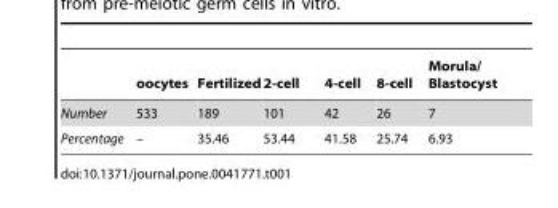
<table><thead><tr><td></td><td>oocytes</td><td>Fertilized</td><td>2-cell</td><td>4-cell</td><td>8-cell</td><td>Morula/ Blastocyst</td></tr></thead><tbody><tr><td>Number</td><td>533</td><td>189</td><td>101</td><td>42</td><td>26</td><td>7</td></tr><tr><td>Percentage</td><td>–</td><td>35.46</td><td>53.44</td><td>41.58</td><td>25.74</td><td>6.93</td></tr></tbody></table>